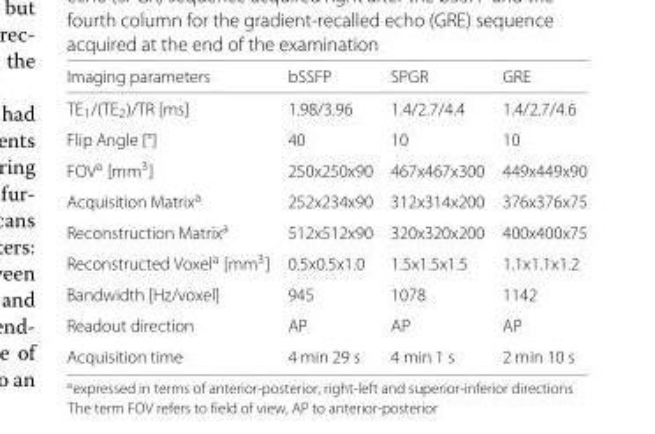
<table><thead><tr><td>Imaging parameters</td><td>bSSFP</td><td>SPGR</td><td>GRE</td></tr></thead><tbody><tr><td>TE<sub>1</sub>/(TE<sub>2</sub>)/TR [ms]</td><td>1.98/3.96</td><td>1.4/2.7/4.4</td><td>1.4/2.7/4.6</td></tr><tr><td>Flip Angle [°]</td><td>40</td><td>10</td><td>10</td></tr><tr><td>FOV<sup>a</sup> [mm<sup>3</sup>]</td><td>250x250x90</td><td>467x467x300</td><td>449x449x90</td></tr><tr><td>Acquisition Matrix<sup>a</sup></td><td>252x234x90</td><td>312x314x200</td><td>376x376x75</td></tr><tr><td>Reconstruction Matrix<sup>a</sup></td><td>512x512x90</td><td>320x320x200</td><td>400x400x75</td></tr><tr><td>Reconstructed Voxel<sup>a</sup> [mm<sup>3</sup>]</td><td>0.5x0.5x1.0</td><td>1.5x1.5x1.5</td><td>1.1x1.1x1.2</td></tr><tr><td>Bandwidth [Hz/voxel]</td><td>945</td><td>1078</td><td>1142</td></tr><tr><td>Readout direction</td><td>AP</td><td>AP</td><td>AP</td></tr><tr><td>Acquisition time</td><td>4 min 29 s</td><td>4 min 1 s</td><td>2 min 10 s</td></tr></tbody></table>